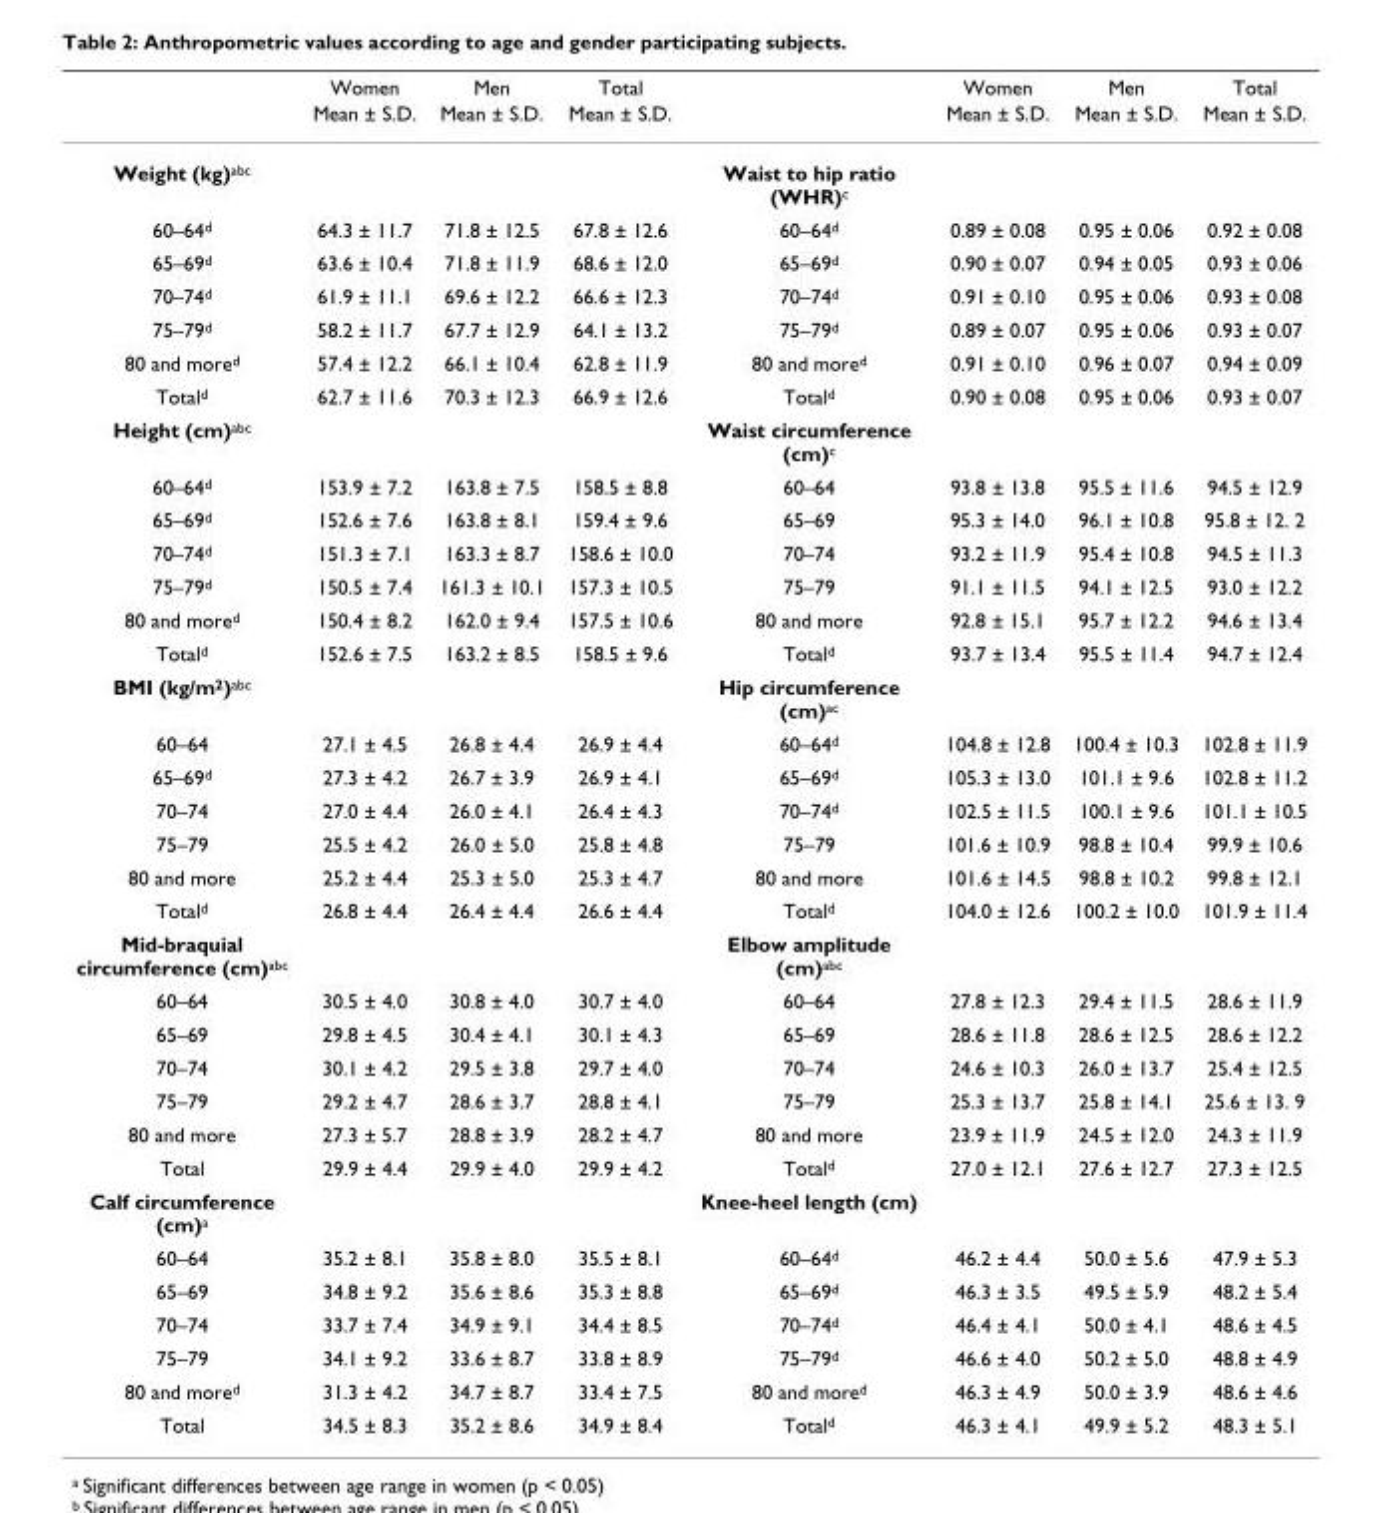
<table><thead><tr><td rowspan="2"></td><td rowspan="2">Women Mean ± S.D.</td><td rowspan="2">Men Mean ± S.D.</td><td rowspan="2">Total Mean ± S.D.</td><td rowspan="2"></td><td rowspan="2">Women Mean ± S.D.</td><td rowspan="2">Men Mean ± S.D.</td><td rowspan="2">Total Mean ± S.D.</td></tr><tr></tr></thead><tbody><tr><td>Weight (kg)<sup>abc</sup></td><td></td><td></td><td></td><td>Waist to hip ratio (WHR)<sup>c</sup></td><td></td><td></td><td></td></tr><tr><td>60–64<sup>d</sup></td><td>64.3 ± 11.7</td><td>71.8 ± 12.5</td><td>67.8 ± 12.6</td><td>60–64<sup>d</sup></td><td>0.89 ± 0.08</td><td>0.95 ± 0.06</td><td>0.92 ± 0.08</td></tr><tr><td>65–69<sup>d</sup></td><td>63.6 ± 10.4</td><td>71.8 ± 11.9</td><td>68.6 ± 12.0</td><td>65–69<sup>d</sup></td><td>0.90 ± 0.07</td><td>0.94 ± 0.05</td><td>0.93 ± 0.06</td></tr><tr><td>70–74<sup>d</sup></td><td>61.9 ± 11.1</td><td>69.6 ± 12.2</td><td>66.6 ± 12.3</td><td>70–74<sup>d</sup></td><td>0.91 ± 0.10</td><td>0.95 ± 0.06</td><td>0.93 ± 0.08</td></tr><tr><td>75–79<sup>d</sup></td><td>58.2 ± 11.7</td><td>67.7 ± 12.9</td><td>64.1 ± 13.2</td><td>75–79<sup>d</sup></td><td>0.89 ± 0.07</td><td>0.95 ± 0.06</td><td>0.93 ± 0.07</td></tr><tr><td>80 and more<sup>d</sup></td><td>57.4 ± 12.2</td><td>66.1 ± 10.4</td><td>62.8 ± 11.9</td><td>80 and more<sup>d</sup></td><td>0.91 ± 0.10</td><td>0.96 ± 0.07</td><td>0.94 ± 0.09</td></tr><tr><td>Total<sup>d</sup></td><td>62.7 ± 11.6</td><td>70.3 ± 12.3</td><td>66.9 ± 12.6</td><td>Total<sup>d</sup></td><td>0.90 ± 0.08</td><td>0.95 ± 0.06</td><td>0.93 ± 0.07</td></tr><tr><td>Height (cm)<sup>abc</sup></td><td></td><td></td><td></td><td>Waist circumference (cm)<sup>c</sup></td><td></td><td></td><td></td></tr><tr><td>60–64<sup>d</sup></td><td>153.9 ± 7.2</td><td>163.8 ± 7.5</td><td>158.5 ± 8.8</td><td>60–64</td><td>93.8 ± 13.8</td><td>95.5 ± 11.6</td><td>94.5 ± 12.9</td></tr><tr><td>65–69<sup>d</sup></td><td>152.6 ± 7.6</td><td>163.8 ± 8.1</td><td>159.4 ± 9.6</td><td>65–69</td><td>95.3 ± 14.0</td><td>96.1 ± 10.8</td><td>95.8 ± 12. 2</td></tr><tr><td>70–74<sup>d</sup></td><td>151.3 ± 7.1</td><td>163.3 ± 8.7</td><td>158.6 ± 10.0</td><td>70–74</td><td>93.2 ± 11.9</td><td>95.4 ± 10.8</td><td>94.5 ± 11.3</td></tr><tr><td>75–79<sup>d</sup></td><td>150.5 ± 7.4</td><td>161.3 ± 10.1</td><td>157.3 ± 10.5</td><td>75–79</td><td>91.1 ± 11.5</td><td>94.1 ± 12.5</td><td>93.0 ± 12.2</td></tr><tr><td>80 and more<sup>d</sup></td><td>150.4 ± 8.2</td><td>162.0 ± 9.4</td><td>157.5 ± 10.6</td><td>80 and more</td><td>92.8 ± 15.1</td><td>95.7 ± 12.2</td><td>94.6 ± 13.4</td></tr><tr><td>Total<sup>d</sup></td><td>152.6 ± 7.5</td><td>163.2 ± 8.5</td><td>158.5 ± 9.6</td><td>Total<sup>d</sup></td><td>93.7 ± 13.4</td><td>95.5 ± 11.4</td><td>94.7 ± 12.4</td></tr><tr><td>BMI (kg/m<sup>2</sup>)<sup>abc</sup></td><td></td><td></td><td></td><td>Hip circumference (cm)<sup>ac</sup></td><td></td><td></td><td></td></tr><tr><td>60–64</td><td>27.1 ± 4.5</td><td>26.8 ± 4.4</td><td>26.9 ± 4.4</td><td>60–64<sup>d</sup></td><td>104.8 ± 12.8</td><td>100.4 ± 10.3</td><td>102.8 ± 11.9</td></tr><tr><td>65–69<sup>d</sup></td><td>27.3 ± 4.2</td><td>26.7 ± 3.9</td><td>26.9 ± 4.1</td><td>65–69<sup>d</sup></td><td>105.3 ± 13.0</td><td>101.1 ± 9.6</td><td>102.8 ± 11.2</td></tr><tr><td>70–74</td><td>27.0 ± 4.4</td><td>26.0 ± 4.1</td><td>26.4 ± 4.3</td><td>70–74<sup>d</sup></td><td>102.5 ± 11.5</td><td>100.1 ± 9.6</td><td>101.1 ± 10.5</td></tr><tr><td>75–79</td><td>25.5 ± 4.2</td><td>26.0 ± 5.0</td><td>25.8 ± 4.8</td><td>75–79</td><td>101.6 ± 10.9</td><td>98.8 ± 10.4</td><td>99.9 ± 10.6</td></tr><tr><td>80 and more</td><td>25.2 ± 4.4</td><td>25.3 ± 5.0</td><td>25.3 ± 4.7</td><td>80 and more</td><td>101.6 ± 14.5</td><td>98.8 ± 10.2</td><td>99.8 ± 12.1</td></tr><tr><td>Total<sup>d</sup></td><td>26.8 ± 4.4</td><td>26.4 ± 4.4</td><td>26.6 ± 4.4</td><td>Total<sup>d</sup></td><td>104.0 ± 12.6</td><td>100.2 ± 10.0</td><td>101.9 ± 11.4</td></tr><tr><td>Mid-braquial circumference (cm)<sup>abc</sup></td><td></td><td></td><td></td><td>Elbow amplitude (cm)<sup>abc</sup></td><td></td><td></td><td></td></tr><tr><td>60–64</td><td>30.5 ± 4.0</td><td>30.8 ± 4.0</td><td>30.7 ± 4.0</td><td>60–64</td><td>27.8 ± 12.3</td><td>29.4 ± 11.5</td><td>28.6 ± 11.9</td></tr><tr><td>65–69</td><td>29.8 ± 4.5</td><td>30.4 ± 4.1</td><td>30.1 ± 4.3</td><td>65–69</td><td>28.6 ± 11.8</td><td>28.6 ± 12.5</td><td>28.6 ± 12.2</td></tr><tr><td>70–74</td><td>30.1 ± 4.2</td><td>29.5 ± 3.8</td><td>29.7 ± 4.0</td><td>70–74</td><td>24.6 ± 10.3</td><td>26.0 ± 13.7</td><td>25.4 ± 12.5</td></tr><tr><td>75–79</td><td>29.2 ± 4.7</td><td>28.6 ± 3.7</td><td>28.8 ± 4.1</td><td>75–79</td><td>25.3 ± 13.7</td><td>25.8 ± 14.1</td><td>25.6 ± 13. 9</td></tr><tr><td>80 and more</td><td>27.3 ± 5.7</td><td>28.8 ± 3.9</td><td>28.2 ± 4.7</td><td>80 and more</td><td>23.9 ± 11.9</td><td>24.5 ± 12.0</td><td>24.3 ± 11.9</td></tr><tr><td>Total</td><td>29.9 ± 4.4</td><td>29.9 ± 4.0</td><td>29.9 ± 4.2</td><td>Total<sup>d</sup></td><td>27.0 ± 12.1</td><td>27.6 ± 12.7</td><td>27.3 ± 12.5</td></tr><tr><td>Calf circumference (cm)<sup>a</sup></td><td></td><td></td><td></td><td>Knee-heel length (cm)</td><td></td><td></td><td></td></tr><tr><td>60–64</td><td>35.2 ± 8.1</td><td>35.8 ± 8.0</td><td>35.5 ± 8.1</td><td>60–64<sup>d</sup></td><td>46.2 ± 4.4</td><td>50.0 ± 5.6</td><td>47.9 ± 5.3</td></tr><tr><td>65–69</td><td>34.8 ± 9.2</td><td>35.6 ± 8.6</td><td>35.3 ± 8.8</td><td>65–69<sup>d</sup></td><td>46.3 ± 3.5</td><td>49.5 ± 5.9</td><td>48.2 ± 5.4</td></tr><tr><td>70–74</td><td>33.7 ± 7.4</td><td>34.9 ± 9.1</td><td>34.4 ± 8.5</td><td>70–74<sup>d</sup></td><td>46.4 ± 4.1</td><td>50.0 ± 4.1</td><td>48.6 ± 4.5</td></tr><tr><td>75–79</td><td>34.1 ± 9.2</td><td>33.6 ± 8.7</td><td>33.8 ± 8.9</td><td>75–79<sup>d</sup></td><td>46.6 ± 4.0</td><td>50.2 ± 5.0</td><td>48.8 ± 4.9</td></tr><tr><td>80 and more<sup>d</sup></td><td>31.3 ± 4.2</td><td>34.7 ± 8.7</td><td>33.4 ± 7.5</td><td>80 and more<sup>d</sup></td><td>46.3 ± 4.9</td><td>50.0 ± 3.9</td><td>48.6 ± 4.6</td></tr><tr><td>Total</td><td>34.5 ± 8.3</td><td>35.2 ± 8.6</td><td>34.9 ± 8.4</td><td>Total<sup>d</sup></td><td>46.3 ± 4.1</td><td>49.9 ± 5.2</td><td>48.3 ± 5.1</td></tr></tbody></table>